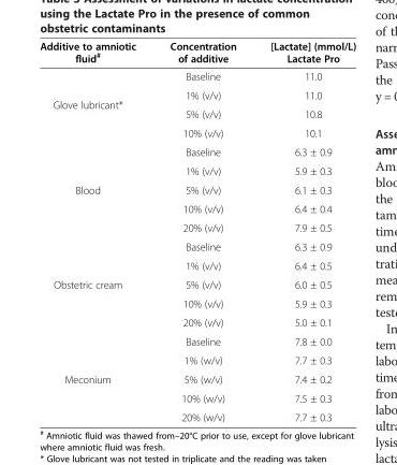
<table><thead><tr><td>Additive to amniotic fluid<sup>#</sup></td><td>Concentration of additive</td><td>[Lactate] (mmol/L) Lactate Pro</td></tr></thead><tbody><tr><td rowspan="4">Glove lubricant*</td><td>Baseline</td><td>11.0</td></tr><tr><td>1% (v/v)</td><td>11.0</td></tr><tr><td>5% (v/v)</td><td>10.8</td></tr><tr><td>10% (v/v)</td><td>10.1</td></tr><tr><td rowspan="5">Blood</td><td>Baseline</td><td>6.3 ± 0.9</td></tr><tr><td>1% (v/v)</td><td>5.9 ± 0.3</td></tr><tr><td>5% (v/v)</td><td>6.1 ± 0.3</td></tr><tr><td>10% (v/v)</td><td>6.4 ± 0.4</td></tr><tr><td>20% (v/v)</td><td>7.9 ± 0.5</td></tr><tr><td rowspan="5">Obstetric cream</td><td>Baseline</td><td>6.3 ± 0.9</td></tr><tr><td>1% (v/v)</td><td>6.4 ± 0.5</td></tr><tr><td>5% (v/v)</td><td>6.0 ± 0.5</td></tr><tr><td>10% (v/v)</td><td>5.9 ± 0.3</td></tr><tr><td>20% (v/v)</td><td>5.0 ± 0.1</td></tr><tr><td rowspan="5">Meconium</td><td>Baseline</td><td>7.8 ± 0.0</td></tr><tr><td>1% (w/v)</td><td>7.7 ± 0.3</td></tr><tr><td>5% (w/v)</td><td>7.4 ± 0.2</td></tr><tr><td>10% (w/v)</td><td>7.5 ± 0.3</td></tr><tr><td>20% (w/v)</td><td>7.7 ± 0.3</td></tr></tbody></table>